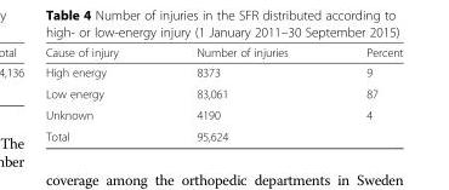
<table><thead><tr><td>Cause of injury</td><td>Number of injuries</td><td>Percent</td></tr></thead><tbody><tr><td>High energy</td><td>8373</td><td>9</td></tr><tr><td>Low energy</td><td>83,061</td><td>87</td></tr><tr><td>Unknown</td><td>4190</td><td>4</td></tr><tr><td>Total</td><td>95,624</td><td></td></tr></tbody></table>